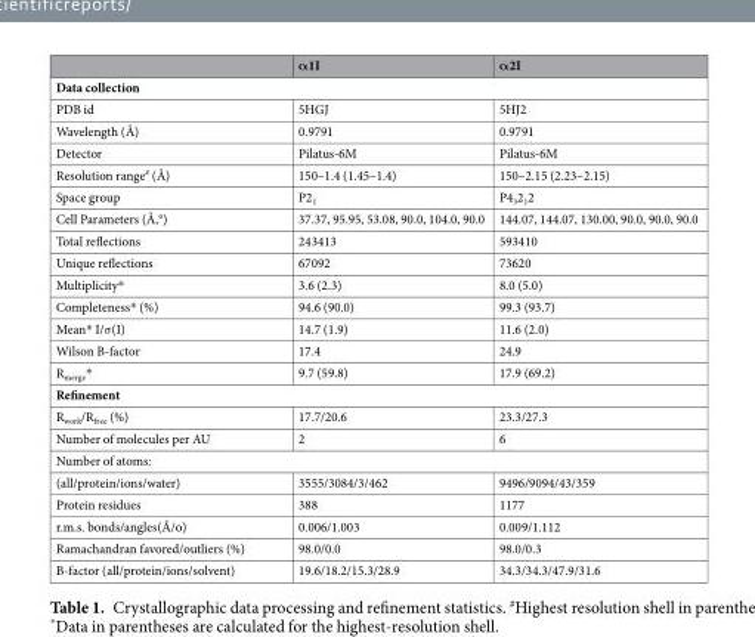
<table><thead><tr><td></td><td>α1I</td><td>α2I</td></tr></thead><tbody><tr><td colspan="3">Data collection</td></tr><tr><td>PDB id</td><td>5HGJ</td><td>5HJ2</td></tr><tr><td>Wavelength (Å)</td><td>0.9791</td><td>0.9791</td></tr><tr><td>Detector</td><td>Pilatus-6M</td><td>Pilatus-6M</td></tr><tr><td>Resolution range<sup>#</sup> (Å)</td><td>150–1.4 (1.45–1.4)</td><td>150–2.15 (2.23–2.15)</td></tr><tr><td>Space group</td><td>P2<sub>1</sub></td><td>P4<sub>3</sub>2<sub>1</sub>2</td></tr><tr><td>Cell Parameters (Å,°)</td><td>37.37, 95.95, 53.08, 90.0, 104.0, 90.0</td><td>144.07, 144.07, 130.00, 90.0, 90.0, 90.0</td></tr><tr><td>Total reflections</td><td>243413</td><td>593410</td></tr><tr><td>Unique reflections</td><td>67092</td><td>73620</td></tr><tr><td>Multiplicity*</td><td>3.6 (2.3)</td><td>8.0 (5.0)</td></tr><tr><td>Completeness* (%)</td><td>94.6 (90.0)</td><td>99.3 (93.7)</td></tr><tr><td>Mean* I/σ(I)</td><td>14.7 (1.9)</td><td>11.6 (2.0)</td></tr><tr><td>Wilson B-factor</td><td>17.4</td><td>24.9</td></tr><tr><td>R<sub>merge</sub>*</td><td>9.7 (59.8)</td><td>17.9 (69.2)</td></tr><tr><td colspan="3">Refinement</td></tr><tr><td>R<sub>work</sub>/R<sub>free</sub> (%)</td><td>17.7/20.6</td><td>23.3/27.3</td></tr><tr><td>Number of molecules per AU</td><td>2</td><td>6</td></tr><tr><td colspan="3">Number of atoms:</td></tr><tr><td>(all/protein/ions/water)</td><td>3555/3084/3/462</td><td>9496/9094/43/359</td></tr><tr><td>Protein residues</td><td>388</td><td>1177</td></tr><tr><td>r.m.s. bonds/angles(Å/o)</td><td>0.006/1.003</td><td>0.009/1.112</td></tr><tr><td>Ramachandran favored/outliers (%)</td><td>98.0/0.0</td><td>98.0/0.3</td></tr><tr><td>B-factor (all/protein/ions/solvent)</td><td>19.6/18.2/15.3/28.9</td><td>34.3/34.3/47.9/31.6</td></tr></tbody></table>